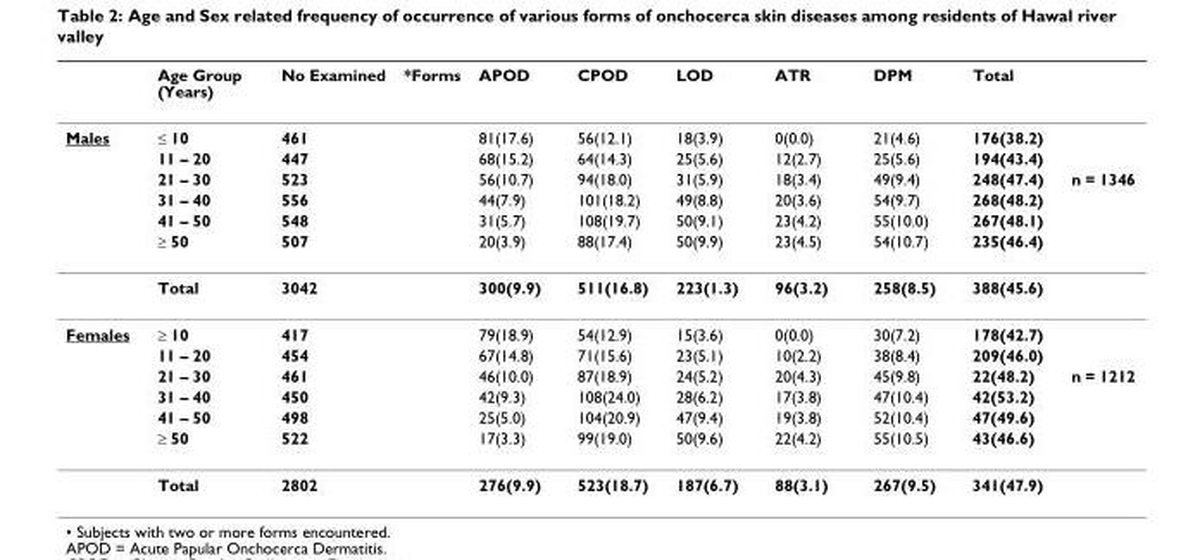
<table><thead><tr><td></td><td>Age Group (Years)</td><td>No Examined</td><td>*Forms</td><td>APOD</td><td>CPOD</td><td>LOD</td><td>ATR</td><td>DPM</td><td>Total</td><td></td></tr></thead><tbody><tr><td rowspan="7">Males</td><td>≤ 10</td><td>461</td><td></td><td>81(17.6)</td><td>56(12.1)</td><td>18(3.9)</td><td>0(0.0)</td><td>21(4.6)</td><td>176(38.2)</td><td></td></tr><tr><td>11 – 20</td><td>447</td><td></td><td>68(15.2)</td><td>64(14.3)</td><td>25(5.6)</td><td>12(2.7)</td><td>25(5.6)</td><td>194(43.4)</td><td></td></tr><tr><td>21 – 30</td><td>523</td><td></td><td>56(10.7)</td><td>94(18.0)</td><td>31(5.9)</td><td>18(3.4)</td><td>49(9.4)</td><td>248(47.4)</td><td>n = 1346</td></tr><tr><td>31 – 40</td><td>556</td><td></td><td>44(7.9)</td><td>101(18.2)</td><td>49(8.8)</td><td>20(3.6)</td><td>54(9.7)</td><td>268(48.2)</td><td></td></tr><tr><td>41 – 50</td><td>548</td><td></td><td>31(5.7)</td><td>108(19.7)</td><td>50(9.1)</td><td>23(4.2)</td><td>55(10.0)</td><td>267(48.1)</td><td></td></tr><tr><td>≥ 50</td><td>507</td><td></td><td>20(3.9)</td><td>88(17.4)</td><td>50(9.9)</td><td>23(4.5)</td><td>54(10.7)</td><td>235(46.4)</td><td></td></tr><tr><td>Total</td><td>3042</td><td></td><td>300(9.9)</td><td>511(16.8)</td><td>223(1.3)</td><td>96(3.2)</td><td>258(8.5)</td><td>388(45.6)</td><td></td></tr><tr><td rowspan="7">Females</td><td>≥ 10</td><td>417</td><td></td><td>79(18.9)</td><td>54(12.9)</td><td>15(3.6)</td><td>0(0.0)</td><td>30(7.2)</td><td>178(42.7)</td><td></td></tr><tr><td>11 – 20</td><td>454</td><td></td><td>67(14.8)</td><td>71(15.6)</td><td>23(5.1)</td><td>10(2.2)</td><td>38(8.4)</td><td>209(46.0)</td><td></td></tr><tr><td>21 – 30</td><td>461</td><td></td><td>46(10.0)</td><td>87(18.9)</td><td>24(5.2)</td><td>20(4.3)</td><td>45(9.8)</td><td>22(48.2)</td><td>n = 1212</td></tr><tr><td>31 – 40</td><td>450</td><td></td><td>42(9.3)</td><td>108(24.0)</td><td>28(6.2)</td><td>17(3.8)</td><td>47(10.4)</td><td>42(53.2)</td><td></td></tr><tr><td>41 – 50</td><td>498</td><td></td><td>25(5.0)</td><td>104(20.9)</td><td>47(9.4)</td><td>19(3.8)</td><td>52(10.4)</td><td>47(49.6)</td><td></td></tr><tr><td>≥ 50</td><td>522</td><td></td><td>17(3.3)</td><td>99(19.0)</td><td>50(9.6)</td><td>22(4.2)</td><td>55(10.5)</td><td>43(46.6)</td><td></td></tr><tr><td>Total</td><td>2802</td><td></td><td>276(9.9)</td><td>523(18.7)</td><td>187(6.7)</td><td>88(3.1)</td><td>267(9.5)</td><td>341(47.9)</td><td></td></tr></tbody></table>